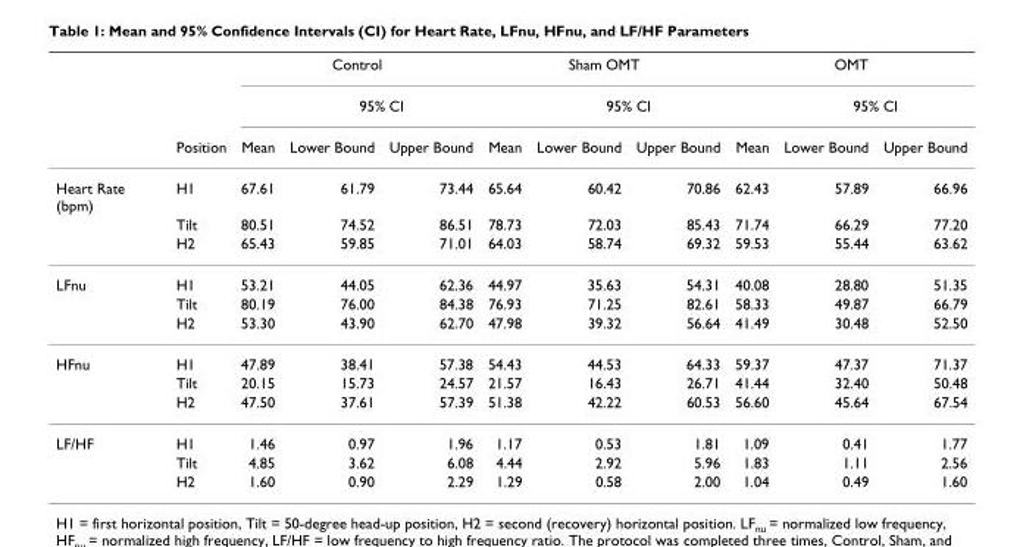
<table><thead><tr><td rowspan="3"></td><td rowspan="3">Position</td><td colspan="3">Control</td><td colspan="3">Sham OMT</td><td colspan="3">OMT</td></tr><tr><td rowspan="2">Mean</td><td colspan="2">95% CI</td><td rowspan="2">Mean</td><td colspan="2">95% CI</td><td rowspan="2">Mean</td><td colspan="2">95% CI</td></tr><tr><td>Lower Bound</td><td>Upper Bound</td><td>Lower Bound</td><td>Upper Bound</td><td>Lower Bound</td><td>Upper Bound</td></tr></thead><tbody><tr><td rowspan="3">Heart Rate (bpm)</td><td>H1</td><td>67.61</td><td>61.79</td><td>73.44</td><td>65.64</td><td>60.42</td><td>70.86</td><td>62.43</td><td>57.89</td><td>66.96</td></tr><tr><td>Tilt</td><td>80.51</td><td>74.52</td><td>86.51</td><td>78.73</td><td>72.03</td><td>85.43</td><td>71.74</td><td>66.29</td><td>77.20</td></tr><tr><td>H2</td><td>65.43</td><td>59.85</td><td>71.01</td><td>64.03</td><td>58.74</td><td>69.32</td><td>59.53</td><td>55.44</td><td>63.62</td></tr><tr><td rowspan="3">LFnu</td><td>H1</td><td>53.21</td><td>44.05</td><td>62.36</td><td>44.97</td><td>35.63</td><td>54.31</td><td>40.08</td><td>28.80</td><td>51.35</td></tr><tr><td>Tilt</td><td>80.19</td><td>76.00</td><td>84.38</td><td>76.93</td><td>71.25</td><td>82.61</td><td>58.33</td><td>49.87</td><td>66.79</td></tr><tr><td>H2</td><td>53.30</td><td>43.90</td><td>62.70</td><td>47.98</td><td>39.32</td><td>56.64</td><td>41.49</td><td>30.48</td><td>52.50</td></tr><tr><td rowspan="3">HFnu</td><td>H1</td><td>47.89</td><td>38.41</td><td>57.38</td><td>54.43</td><td>44.53</td><td>64.33</td><td>59.37</td><td>47.37</td><td>71.37</td></tr><tr><td>Tilt</td><td>20.15</td><td>15.73</td><td>24.57</td><td>21.57</td><td>16.43</td><td>26.71</td><td>41.44</td><td>32.40</td><td>50.48</td></tr><tr><td>H2</td><td>47.50</td><td>37.61</td><td>57.39</td><td>51.38</td><td>42.22</td><td>60.53</td><td>56.60</td><td>45.64</td><td>67.54</td></tr><tr><td rowspan="3">LF/HF</td><td>H1</td><td>1.46</td><td>0.97</td><td>1.96</td><td>1.17</td><td>0.53</td><td>1.81</td><td>1.09</td><td>0.41</td><td>1.77</td></tr><tr><td>Tilt</td><td>4.85</td><td>3.62</td><td>6.08</td><td>4.44</td><td>2.92</td><td>5.96</td><td>1.83</td><td>1.11</td><td>2.56</td></tr><tr><td>H2</td><td>1.60</td><td>0.90</td><td>2.29</td><td>1.29</td><td>0.58</td><td>2.00</td><td>1.04</td><td>0.49</td><td>1.60</td></tr></tbody></table>